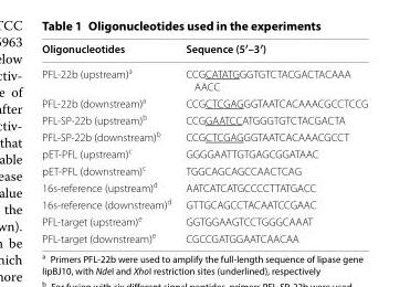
<table><thead><tr><td>Oligonucleotides</td><td>Sequence (5′–3′)</td></tr></thead><tbody><tr><td>PFL-22b (upstream)<sup>a</sup></td><td>CCG CAT ATG GGT GTC TAC GAC TAC AAA AACC</td></tr><tr><td>PFL-22b (downstream)<sup>a</sup></td><td>CCG CTC GAG GGT AAT CAC AAA CGC CTC CG</td></tr><tr><td>PFL-SP-22b (upstream)<sup>b</sup></td><td>CCG GAA TCC ATG GGT GTC TAC GACTA</td></tr><tr><td>PFL-SP-22b (downstream)<sup>b</sup></td><td>CCG CTC GAG GGT AAT CAC AAA CGCCT</td></tr><tr><td>pET-PFL (upstream)<sup>c</sup></td><td>GGG GAA TTG TGA GCG GAT AAC</td></tr><tr><td>pET-PFL (downstream)<sup>c</sup></td><td>TGG CAG CAG CCA ACT CAG</td></tr><tr><td>16s-reference (upstream)<sup>d</sup></td><td>AAT CAT CAT GCC CCT TAT GACC</td></tr><tr><td>16s-reference (downstream)<sup>d</sup></td><td>GTT GCA GCC TAC AAT CCG AAC</td></tr><tr><td>PFL-target (upstream)<sup>e</sup></td><td>GGT GGA AGT CCT GGG CAA AT</td></tr><tr><td>PFL-target (downstream)<sup>e</sup></td><td>CGC CGA TGG AAT CAA CAA</td></tr></tbody></table>